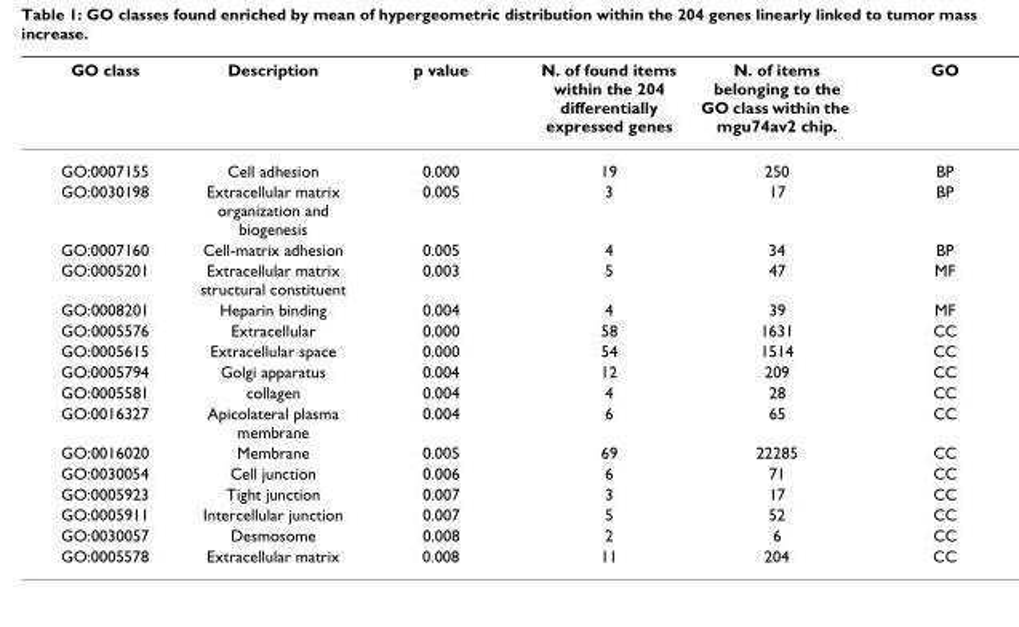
<table><thead><tr><td>GO class</td><td>Description</td><td>p value</td><td>N. of found items within the 204 differentially expressed genes</td><td>N. of items belonging to the GO class within the mgu74av2 chip.</td><td>GO</td></tr></thead><tbody><tr><td>GO:0007155</td><td>Cell adhesion</td><td>0.000</td><td>19</td><td>250</td><td>BP</td></tr><tr><td>GO:0030198</td><td>Extracellular matrix organization and biogenesis</td><td>0.005</td><td>3</td><td>17</td><td>BP</td></tr><tr><td>GO:0007160</td><td>Cell-matrix adhesion</td><td>0.005</td><td>4</td><td>34</td><td>BP</td></tr><tr><td>GO:0005201</td><td>Extracellular matrix structural constituent</td><td>0.003</td><td>5</td><td>47</td><td>MF</td></tr><tr><td>GO:0008201</td><td>Heparin binding</td><td>0.004</td><td>4</td><td>39</td><td>MF</td></tr><tr><td>GO:0005576</td><td>Extracellular</td><td>0.000</td><td>58</td><td>1631</td><td>CC</td></tr><tr><td>GO:0005615</td><td>Extracellular space</td><td>0.000</td><td>54</td><td>1514</td><td>CC</td></tr><tr><td>GO:0005794</td><td>Golgi apparatus</td><td>0.004</td><td>12</td><td>209</td><td>CC</td></tr><tr><td>GO:0005581</td><td>collagen</td><td>0.004</td><td>4</td><td>28</td><td>CC</td></tr><tr><td>GO:0016327</td><td>Apicolateral plasma membrane</td><td>0.004</td><td>6</td><td>65</td><td>CC</td></tr><tr><td>GO:0016020</td><td>Membrane</td><td>0.005</td><td>69</td><td>22285</td><td>CC</td></tr><tr><td>GO:0030054</td><td>Cell junction</td><td>0.006</td><td>6</td><td>71</td><td>CC</td></tr><tr><td>GO:0005923</td><td>Tight junction</td><td>0.007</td><td>3</td><td>17</td><td>CC</td></tr><tr><td>GO:0005911</td><td>Intercellular junction</td><td>0.007</td><td>5</td><td>52</td><td>CC</td></tr><tr><td>GO:0030057</td><td>Desmosome</td><td>0.008</td><td>2</td><td>6</td><td>CC</td></tr><tr><td>GO:0005578</td><td>Extracellular matrix</td><td>0.008</td><td>11</td><td>204</td><td>CC</td></tr></tbody></table>